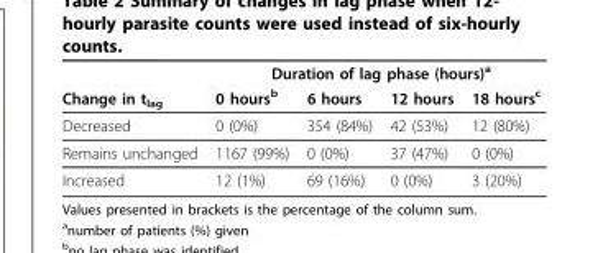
<table><thead><tr><td rowspan="2">Change in t<sub>lag</sub></td><td colspan="4">Duration of lag phase (hours)<sup>a</sup></td></tr><tr><td>0 hours<sup>b</sup></td><td>6 hours</td><td>12 hours</td><td>18 hours<sup>c</sup></td></tr></thead><tbody><tr><td>Decreased</td><td>0 (0%)</td><td>354 (84%)</td><td>42 (53%)</td><td>12 (80%)</td></tr><tr><td>Remains unchanged</td><td>1167 (99%)</td><td>0 (0%)</td><td>37 (47%)</td><td>0 (0%)</td></tr><tr><td>Increased</td><td>12 (1%)</td><td>69 (16%)</td><td>0 (0%)</td><td>3 (20%)</td></tr></tbody></table>